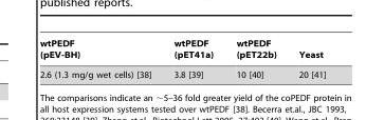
<table><thead><tr><td>wtPEDF (pEV-BH)</td><td>wtPEDF (pET41a)</td><td>wtPEDF (pET22b)</td><td>Yeast</td></tr></thead><tbody><tr><td>2.6 (1.3 mg/g wet cells) [38]</td><td>3.8 [39]</td><td>10 [40]</td><td>20 [41]</td></tr></tbody></table>